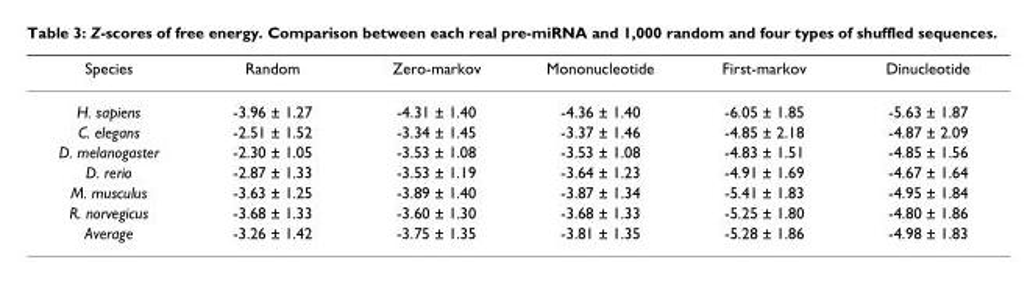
<table><thead><tr><td>Species</td><td>Random</td><td>Zero-markov</td><td>Mononucleotide</td><td>First-markov</td><td>Dinucleotide</td></tr></thead><tbody><tr><td>H. sapiens</td><td>-3.96 ± 1.27</td><td>-4.31 ± 1.40</td><td>-4.36 ± 1.40</td><td>-6.05 ± 1.85</td><td>-5.63 ± 1.87</td></tr><tr><td>C. elegans</td><td>-2.51 ± 1.52</td><td>-3.34 ± 1.45</td><td>-3.37 ± 1.46</td><td>-4.85 ± 2.18</td><td>-4.87 ± 2.09</td></tr><tr><td>D. melanogaster</td><td>-2.30 ± 1.05</td><td>-3.53 ± 1.08</td><td>-3.53 ± 1.08</td><td>-4.83 ± 1.51</td><td>-4.85 ± 1.56</td></tr><tr><td>D. rerio</td><td>-2.87 ± 1.33</td><td>-3.53 ± 1.19</td><td>-3.64 ± 1.23</td><td>-4.91 ± 1.69</td><td>-4.67 ± 1.64</td></tr><tr><td>M. musculus</td><td>-3.63 ± 1.25</td><td>-3.89 ± 1.40</td><td>-3.87 ± 1.34</td><td>-5.41 ± 1.83</td><td>-4.95 ± 1.84</td></tr><tr><td>R. norvegicus</td><td>-3.68 ± 1.33</td><td>-3.60 ± 1.30</td><td>-3.68 ± 1.33</td><td>-5.25 ± 1.80</td><td>-4.80 ± 1.86</td></tr><tr><td>Average</td><td>-3.26 ± 1.42</td><td>-3.75 ± 1.35</td><td>-3.81 ± 1.35</td><td>-5.28 ± 1.86</td><td>-4.98 ± 1.83</td></tr></tbody></table>